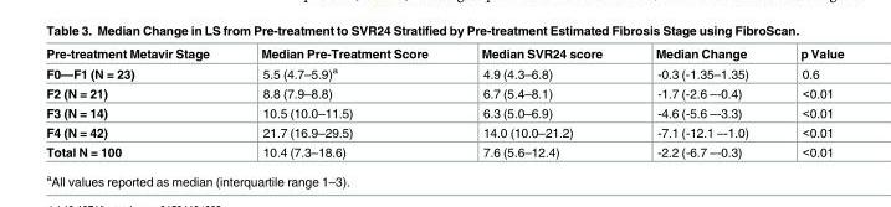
<table><thead><tr><td>Pre-treatment Metavir Stage</td><td>Median Pre-Treatment Score</td><td>Median SVR24 score</td><td>Median Change</td><td>p Value</td></tr></thead><tbody><tr><td>F0—F1 (N = 23)</td><td>5.5 (4.7–5.9)<sup>a</sup></td><td>4.9 (4.3–6.8)</td><td>-0.3 (-1.35–1.35)</td><td>0.6</td></tr><tr><td>F2 (N = 21)</td><td>8.8 (7.9–8.8)</td><td>6.7 (5.4–8.1)</td><td>-1.7 (-2.6 –-0.4)</td><td>&lt;0.01</td></tr><tr><td>F3 (N = 14)</td><td>10.5 (10.0–11.5)</td><td>6.3 (5.0–6.9)</td><td>-4.6 (-5.6 –-3.3)</td><td>&lt;0.01</td></tr><tr><td>F4 (N = 42)</td><td>21.7 (16.9–29.5)</td><td>14.0 (10.0–21.2)</td><td>-7.1 (-12.1 –-1.0)</td><td>&lt;0.01</td></tr><tr><td>Total N = 100</td><td>10.4 (7.3–18.6)</td><td>7.6 (5.6–12.4)</td><td>-2.2 (-6.7 –-0.3)</td><td>&lt;0.01</td></tr></tbody></table>